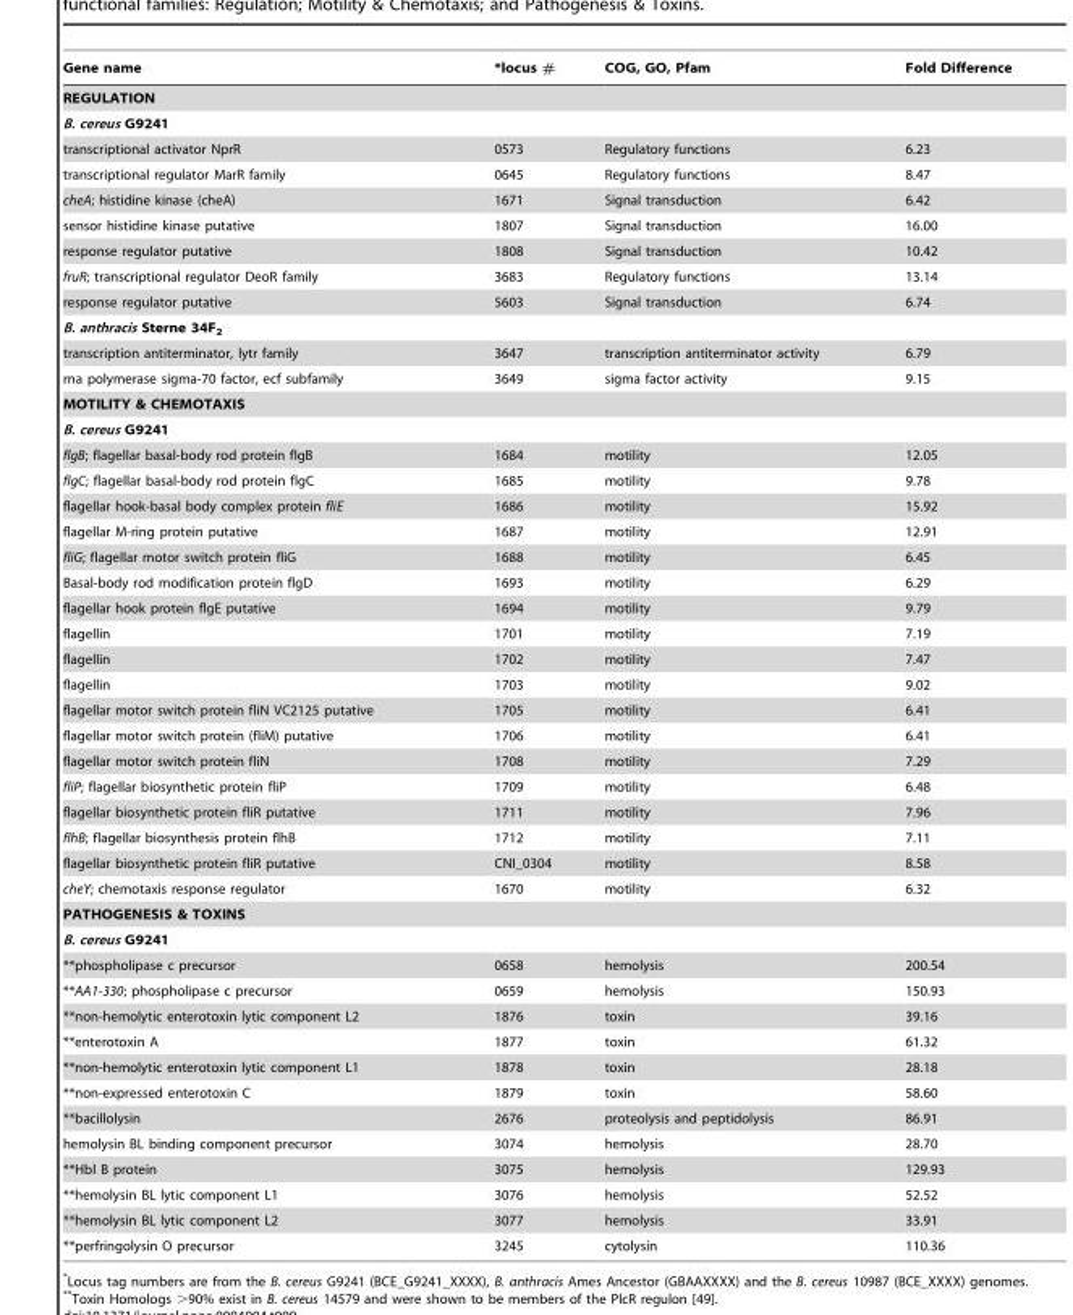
<table><thead><tr><td>Gene name</td><td>*locus #</td><td>COG, GO, Pfam</td><td>Fold Difference</td></tr></thead><tbody><tr><td colspan="4">REGULATION</td></tr><tr><td colspan="4">B. cereus G9241</td></tr><tr><td>transcriptional activator NprR</td><td>0573</td><td>Regulatory functions</td><td>6.23</td></tr><tr><td>transcriptional regulator MarR family</td><td>0645</td><td>Regulatory functions</td><td>8.47</td></tr><tr><td>cheA; histidine kinase (cheA)</td><td>1671</td><td>Signal transduction</td><td>6.42</td></tr><tr><td>sensor histidine kinase putative</td><td>1807</td><td>Signal transduction</td><td>16.00</td></tr><tr><td>response regulator putative</td><td>1808</td><td>Signal transduction</td><td>10.42</td></tr><tr><td>fruR; transcriptional regulator DeoR family</td><td>3683</td><td>Regulatory functions</td><td>13.14</td></tr><tr><td>response regulator putative</td><td>5603</td><td>Signal transduction</td><td>6.74</td></tr><tr><td colspan="4">B. anthracis Sterne 34F<sub>2</sub></td></tr><tr><td>transcription antiterminator, lytr family</td><td>3647</td><td>transcription antiterminator activity</td><td>6.79</td></tr><tr><td>rna polymerase sigma-70 factor, ecf subfamily</td><td>3649</td><td>sigma factor activity</td><td>9.15</td></tr><tr><td colspan="4">MOTILITY &amp; CHEMOTAXIS</td></tr><tr><td colspan="4">B. cereus G9241</td></tr><tr><td>flgB; flagellar basal-body rod protein flgB</td><td>1684</td><td>motility</td><td>12.05</td></tr><tr><td>flgC; flagellar basal-body rod protein flgC</td><td>1685</td><td>motility</td><td>9.78</td></tr><tr><td>flagellar hook-basal body complex protein fliE</td><td>1686</td><td>motility</td><td>15.92</td></tr><tr><td>flagellar M-ring protein putative</td><td>1687</td><td>motility</td><td>12.91</td></tr><tr><td>fliG; flagellar motor switch protein fliG</td><td>1688</td><td>motility</td><td>6.45</td></tr><tr><td>Basal-body rod modification protein flgD</td><td>1693</td><td>motility</td><td>6.29</td></tr><tr><td>flagellar hook protein flgE putative</td><td>1694</td><td>motility</td><td>9.79</td></tr><tr><td>flagellin</td><td>1701</td><td>motility</td><td>7.19</td></tr><tr><td>flagellin</td><td>1702</td><td>motility</td><td>7.47</td></tr><tr><td>flagellin</td><td>1703</td><td>motility</td><td>9.02</td></tr><tr><td>flagellar motor switch protein fliN VC2125 putative</td><td>1705</td><td>motility</td><td>6.41</td></tr><tr><td>flagellar motor switch protein (fliM) putative</td><td>1706</td><td>motility</td><td>6.41</td></tr><tr><td>flagellar motor switch protein fliN</td><td>1708</td><td>motility</td><td>7.29</td></tr><tr><td>fliP; flagellar biosynthetic protein fliP</td><td>1709</td><td>motility</td><td>6.48</td></tr><tr><td>flagellar biosynthetic protein fliR putative</td><td>1711</td><td>motility</td><td>7.96</td></tr><tr><td>flhB; flagellar biosynthesis protein flhB</td><td>1712</td><td>motility</td><td>7.11</td></tr><tr><td>flagellar biosynthetic protein fliR putative</td><td>CNI_0304</td><td>motility</td><td>8.58</td></tr><tr><td>cheY; chemotaxis response regulator</td><td>1670</td><td>motility</td><td>6.32</td></tr><tr><td colspan="4">PATHOGENESIS &amp; TOXINS</td></tr><tr><td colspan="4">B. cereus G9241</td></tr><tr><td>**phospholipase c precursor</td><td>0658</td><td>hemolysis</td><td>200.54</td></tr><tr><td>**AA1-330; phospholipase c precursor</td><td>0659</td><td>hemolysis</td><td>150.93</td></tr><tr><td>**non-hemolytic enterotoxin lytic component L2</td><td>1876</td><td>toxin</td><td>39.16</td></tr><tr><td>**enterotoxin A</td><td>1877</td><td>toxin</td><td>61.32</td></tr><tr><td>**non-hemolytic enterotoxin lytic component L1</td><td>1878</td><td>toxin</td><td>28.18</td></tr><tr><td>**non-expressed enterotoxin C</td><td>1879</td><td>toxin</td><td>58.60</td></tr><tr><td>**bacillolysin</td><td>2676</td><td>proteolysis and peptidolysis</td><td>86.91</td></tr><tr><td>hemolysin BL binding component precursor</td><td>3074</td><td>hemolysis</td><td>28.70</td></tr><tr><td>**Hbl B protein</td><td>3075</td><td>hemolysis</td><td>129.93</td></tr><tr><td>**hemolysin BL lytic component L1</td><td>3076</td><td>hemolysis</td><td>52.52</td></tr><tr><td>**hemolysin BL lytic component L2</td><td>3077</td><td>hemolysis</td><td>33.91</td></tr><tr><td>**perfringolysin O precursor</td><td>3245</td><td>cytolysin</td><td>110.36</td></tr></tbody></table>